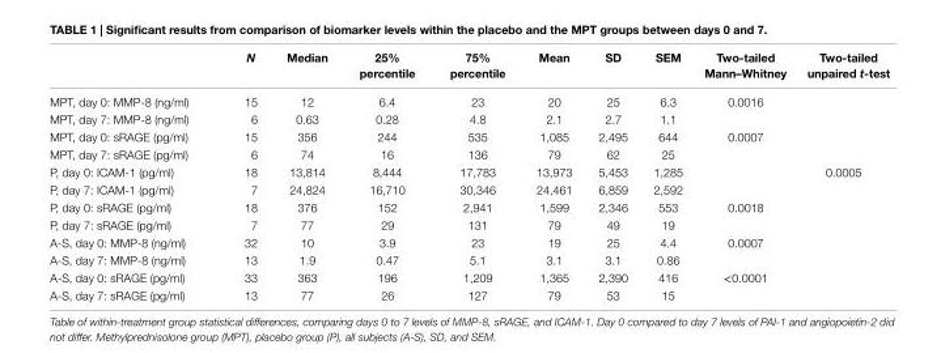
<table><thead><tr><td></td><td>N</td><td>Median</td><td>25% percentile</td><td>75% percentile</td><td>Mean</td><td>SD</td><td>SEM</td><td>two-tailed Mann–Whitney</td><td>two-tailed unpaired t-test</td></tr></thead><tbody><tr><td>MPT, day 0: MMP-8 (ng/ml)</td><td>15</td><td>12</td><td>6.4</td><td>23</td><td>20</td><td>25</td><td>6.3</td><td>0.0016</td><td></td></tr><tr><td>MPT, day 7: MMP-8 (ng/ml)</td><td>6</td><td>0.63</td><td>0.28</td><td>4.8</td><td>2.1</td><td>2.7</td><td>1.1</td><td></td><td></td></tr><tr><td>MPT, day 0: sRAGE (pg/ml)</td><td>15</td><td>356</td><td>244</td><td>535</td><td>1,085</td><td>2,495</td><td>644</td><td>0.0007</td><td></td></tr><tr><td>MPT, day 7: sRAGE (pg/ml)</td><td>6</td><td>74</td><td>16</td><td>136</td><td>79</td><td>62</td><td>25</td><td></td><td></td></tr><tr><td>P, day 0: ICAM-1 (pg/ml)</td><td>18</td><td>13,814</td><td>8,444</td><td>17,783</td><td>13,973</td><td>5,453</td><td>1,285</td><td></td><td>0.0005</td></tr><tr><td>P, day 7: ICAM-1 (pg/ml)</td><td>7</td><td>24,824</td><td>16,710</td><td>30,346</td><td>24,461</td><td>6,859</td><td>2,592</td><td></td><td></td></tr><tr><td>P, day 0: sRAGE (pg/ml)</td><td>18</td><td>376</td><td>152</td><td>2,941</td><td>1,599</td><td>2,346</td><td>553</td><td>0.0018</td><td></td></tr><tr><td>P, day 7: sRAGE (pg/ml)</td><td>7</td><td>77</td><td>29</td><td>131</td><td>79</td><td>49</td><td>19</td><td></td><td></td></tr><tr><td>A-S, day 0: MMP-8 (ng/ml)</td><td>32</td><td>10</td><td>3.9</td><td>23</td><td>19</td><td>25</td><td>4.4</td><td>0.0007</td><td></td></tr><tr><td>A-S, day 7: MMP-8 (ng/ml)</td><td>13</td><td>1.9</td><td>0.47</td><td>5.1</td><td>3.1</td><td>3.1</td><td>0.86</td><td></td><td></td></tr><tr><td>A-S, day 0: sRAGE (pg/ml)</td><td>33</td><td>363</td><td>196</td><td>1,209</td><td>1,365</td><td>2,390</td><td>416</td><td>&lt;0.0001</td><td></td></tr><tr><td>A-S, day 7: sRAGE (pg/ml)</td><td>13</td><td>77</td><td>26</td><td>127</td><td>79</td><td>53</td><td>15</td><td></td><td></td></tr></tbody></table>